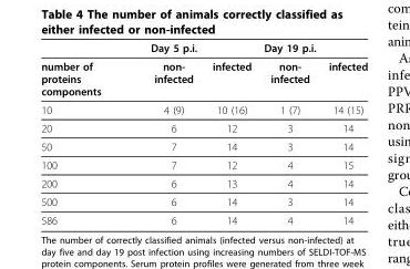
<table><thead><tr><td></td><td>Day 5 p.i.</td><td></td><td>Day 19 p.i.</td><td></td></tr></thead><tbody><tr><td>number of proteins components</td><td>non- infected</td><td>infected</td><td>non- infected</td><td>infected</td></tr><tr><td>10</td><td>4 (9)</td><td>10 (16)</td><td>1 (7)</td><td>14 (15)</td></tr><tr><td>20</td><td>6</td><td>12</td><td>3</td><td>14</td></tr><tr><td>50</td><td>7</td><td>14</td><td>3</td><td>14</td></tr><tr><td>100</td><td>7</td><td>12</td><td>4</td><td>15</td></tr><tr><td>200</td><td>6</td><td>13</td><td>4</td><td>14</td></tr><tr><td>500</td><td>6</td><td>14</td><td>3</td><td>14</td></tr><tr><td>586</td><td>6</td><td>14</td><td>4</td><td>14</td></tr></tbody></table>